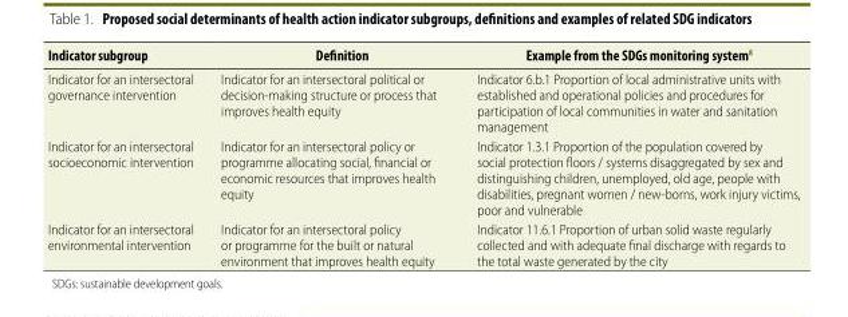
<table><thead><tr><td>Indicator subgroup</td><td>Definition</td><td>Example from the SDGs monitoring system<sup>8</sup></td></tr></thead><tbody><tr><td>Indicator for an intersectoral governance intervention</td><td>Indicator for an intersectoral political or decision-making structure or process that improves health equity</td><td>Indicator 6.b.1 Proportion of local administrative units with established and operational policies and procedures for participation of local communities in water and sanitation management</td></tr><tr><td>Indicator for an intersectoral socioeconomic intervention</td><td>Indicator for an intersectoral policy or programme allocating social, financial or economic resources that improves health equity</td><td>Indicator 1.3.1 Proportion of the population covered by social protection floors / systems disaggregated by sex and distinguishing children, unemployed, old age, people with disabilities, pregnant women / new-borns, work injury victims, poor and vulnerable</td></tr><tr><td>Indicator for an intersectoral environmental intervention</td><td>Indicator for an intersectoral policy or programme for the built or natural environment that improves health equity</td><td>Indicator 11.6.1 Proportion of urban solid waste regularly collected and with adequate final discharge with regards to the total waste generated by the city</td></tr></tbody></table>